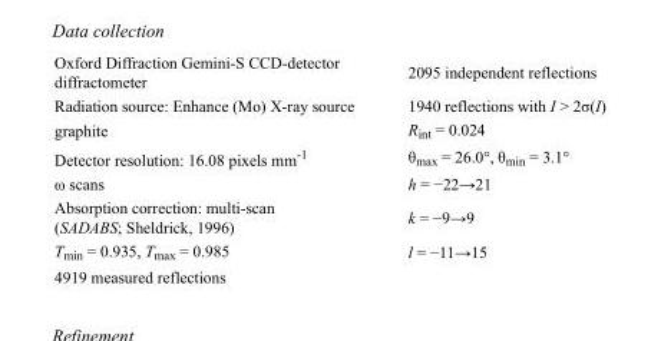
<table><tbody><tr><td>Oxford Diffraction Gemini-S CCD-detector diffractometer</td><td>2095 independent reflections</td></tr><tr><td>Radiation source: Enhance (Mo) X-ray source</td><td>1940 reflections with I &gt; 2σ(I)</td></tr><tr><td>graphite</td><td>R<sub>int</sub> = 0.024</td></tr><tr><td>Detector resolution: 16.08 pixels mm<sup>-1</sup></td><td>θ<sub>max</sub> = 26.0°, θ<sub>min</sub> = 3.1°</td></tr><tr><td>ω scans</td><td>h = −22→21</td></tr><tr><td>Absorption correction: multi-scan (SADABS; Sheldrick, 1996)</td><td>k = −9→9</td></tr><tr><td>T<sub>min</sub> = 0.935, T<sub>max</sub> = 0.985</td><td>l = −11→15</td></tr><tr><td>4919 measured reflections</td><td></td></tr></tbody></table>